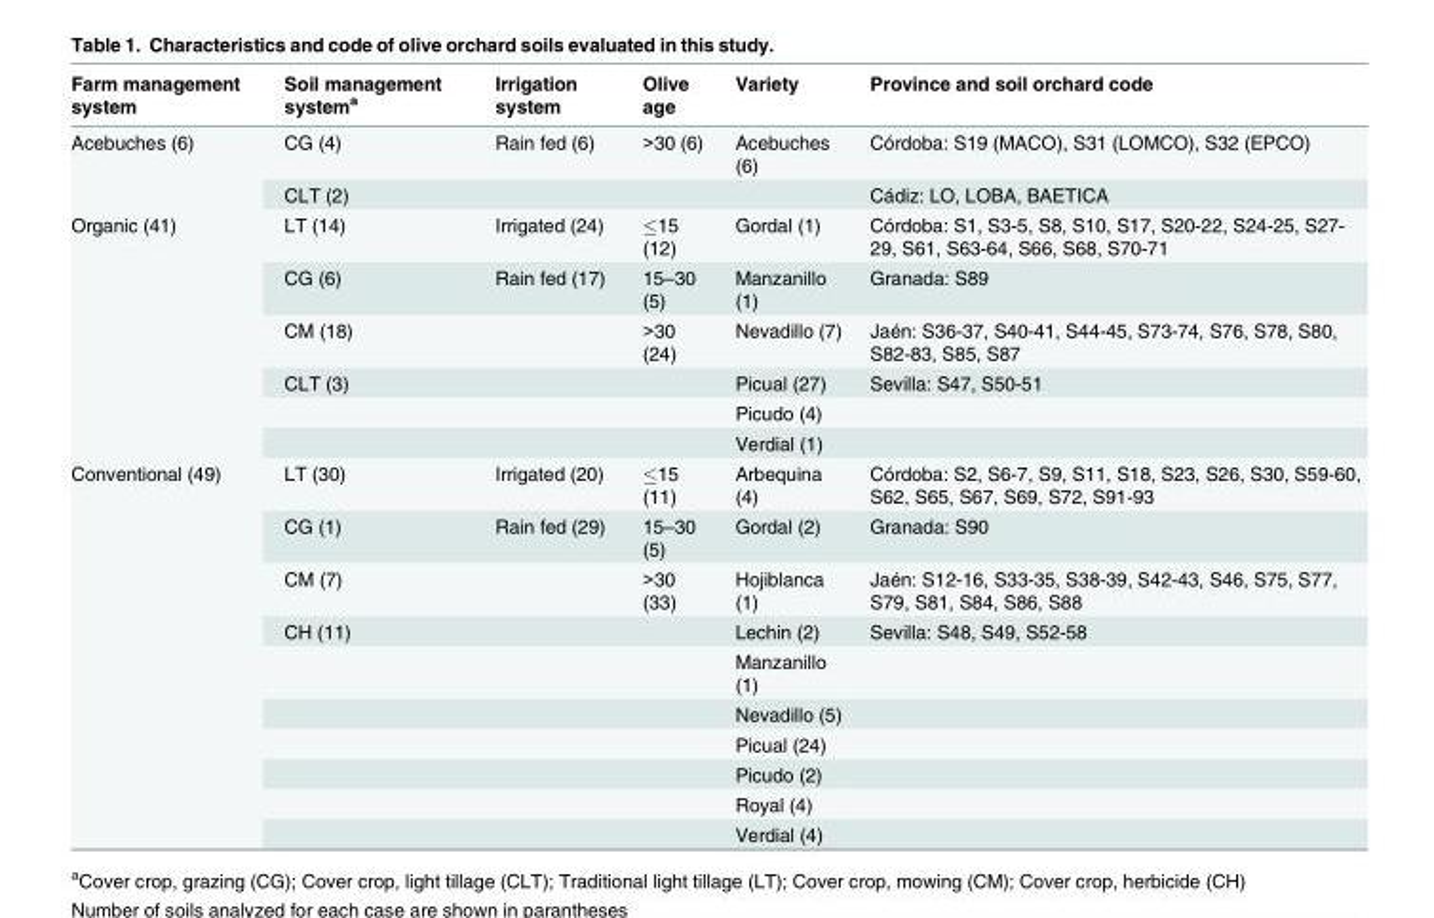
<table><thead><tr><td>Farm management system</td><td>Soil management system<sup>a</sup></td><td>Irrigation system</td><td>Olive age</td><td>Variety</td><td>Province and soil orchard code</td></tr></thead><tbody><tr><td rowspan="2">Acebuches (6)</td><td>CG (4)</td><td>Rain fed (6)</td><td>&gt;30 (6)</td><td>Acebuches (6)</td><td>Córdoba: S19 (MACO), S31 (LOMCO), S32 (EPCO)</td></tr><tr><td>CLT (2)</td><td></td><td></td><td></td><td>Cádiz: LO, LOBA, BAETICA</td></tr><tr><td rowspan="6">Organic (41)</td><td>LT (14)</td><td>Irrigated (24)</td><td>≤15 (12)</td><td>Gordal (1)</td><td>Córdoba: S1, S3-5, S8, S10, S17, S20-22, S24-25, S27- 29, S61, S63-64, S66, S68, S70-71</td></tr><tr><td>CG (6)</td><td>Rain fed (17)</td><td>15–30 (5)</td><td>Manzanillo (1)</td><td>Granada: S89</td></tr><tr><td>CM (18)</td><td></td><td>&gt;30 (24)</td><td>Nevadillo (7)</td><td>Jaén: S36-37, S40-41, S44-45, S73-74, S76, S78, S80, S82-83, S85, S87</td></tr><tr><td>CLT (3)</td><td></td><td></td><td>Picual (27)</td><td>Sevilla: S47, S50-51</td></tr><tr><td></td><td></td><td></td><td>Picudo (4)</td><td></td></tr><tr><td></td><td></td><td></td><td>Verdial (1)</td><td></td></tr><tr><td rowspan="10">Conventional (49)</td><td>LT (30)</td><td>Irrigated (20)</td><td>≤15 (11)</td><td>Arbequina (4)</td><td>Córdoba: S2, S6-7, S9, S11, S18, S23, S26, S30, S59-60, S62, S65, S67, S69, S72, S91-93</td></tr><tr><td>CG (1)</td><td>Rain fed (29)</td><td>15–30 (5)</td><td>Gordal (2)</td><td>Granada: S90</td></tr><tr><td>CM (7)</td><td></td><td>&gt;30 (33)</td><td>Hojiblanca (1)</td><td>Jaén: S12-16, S33-35, S38-39, S42-43, S46, S75, S77, S79, S81, S84, S86, S88</td></tr><tr><td>CH (11)</td><td></td><td></td><td>Lechin (2)</td><td>Sevilla: S48, S49, S52-58</td></tr><tr><td></td><td></td><td></td><td>Manzanillo (1)</td><td></td></tr><tr><td></td><td></td><td></td><td>Nevadillo (5)</td><td></td></tr><tr><td></td><td></td><td></td><td>Picual (24)</td><td></td></tr><tr><td></td><td></td><td></td><td>Picudo (2)</td><td></td></tr><tr><td></td><td></td><td></td><td>Royal (4)</td><td></td></tr><tr><td></td><td></td><td></td><td>Verdial (4)</td><td></td></tr></tbody></table>